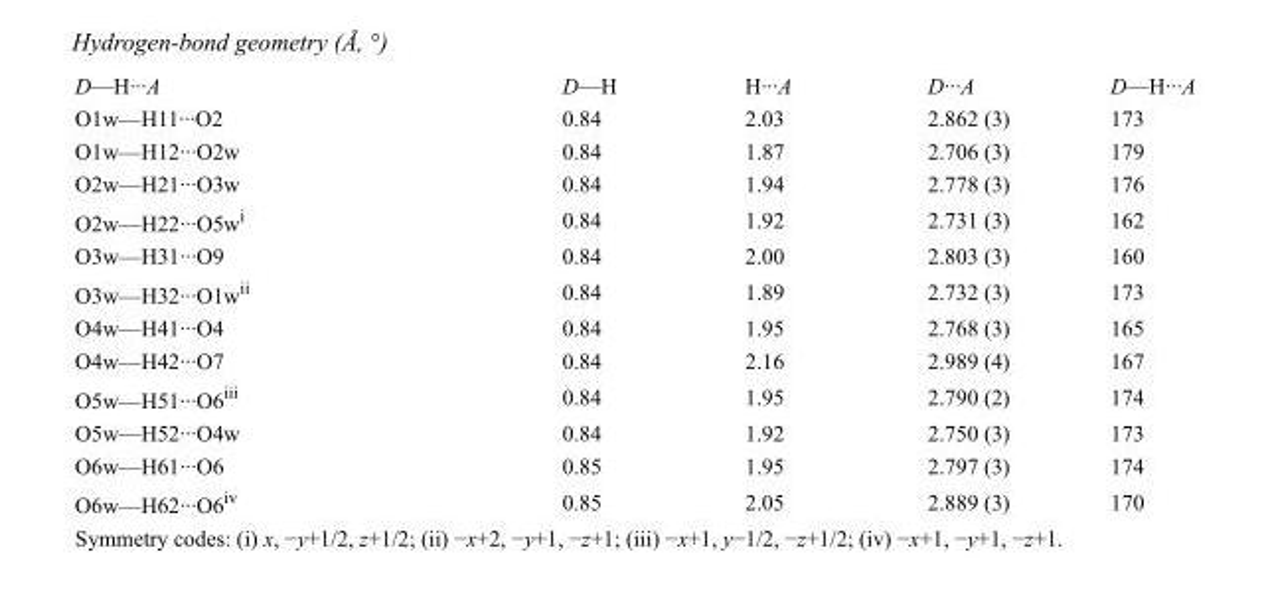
<table><tbody><tr><td>D—H···A</td><td>D—H</td><td>H···A</td><td>D···A</td><td>D—H···A</td></tr><tr><td>O1w—H11···O2</td><td>0.84</td><td>2.03</td><td>2.862 (3)</td><td>173</td></tr><tr><td>O1w—H12···O2w</td><td>0.84</td><td>1.87</td><td>2.706 (3)</td><td>179</td></tr><tr><td>O2w—H21···O3w</td><td>0.84</td><td>1.94</td><td>2.778 (3)</td><td>176</td></tr><tr><td>O2w—H22···O5w<sup>i</sup></td><td>0.84</td><td>1.92</td><td>2.731 (3)</td><td>162</td></tr><tr><td>O3w—H31···O9</td><td>0.84</td><td>2.00</td><td>2.803 (3)</td><td>160</td></tr><tr><td>O3w—H32···O1w<sup>ii</sup></td><td>0.84</td><td>1.89</td><td>2.732 (3)</td><td>173</td></tr><tr><td>O4w—H41···O4</td><td>0.84</td><td>1.95</td><td>2.768 (3)</td><td>165</td></tr><tr><td>O4w—H42···O7</td><td>0.84</td><td>2.16</td><td>2.989 (4)</td><td>167</td></tr><tr><td>O5w—H51···O6<sup>iii</sup></td><td>0.84</td><td>1.95</td><td>2.790 (2)</td><td>174</td></tr><tr><td>O5w—H52···O4w</td><td>0.84</td><td>1.92</td><td>2.750 (3)</td><td>173</td></tr><tr><td>O6w—H61···O6</td><td>0.85</td><td>1.95</td><td>2.797 (3)</td><td>174</td></tr><tr><td>O6w—H62···O6<sup>iv</sup></td><td>0.85</td><td>2.05</td><td>2.889 (3)</td><td>170</td></tr></tbody></table>